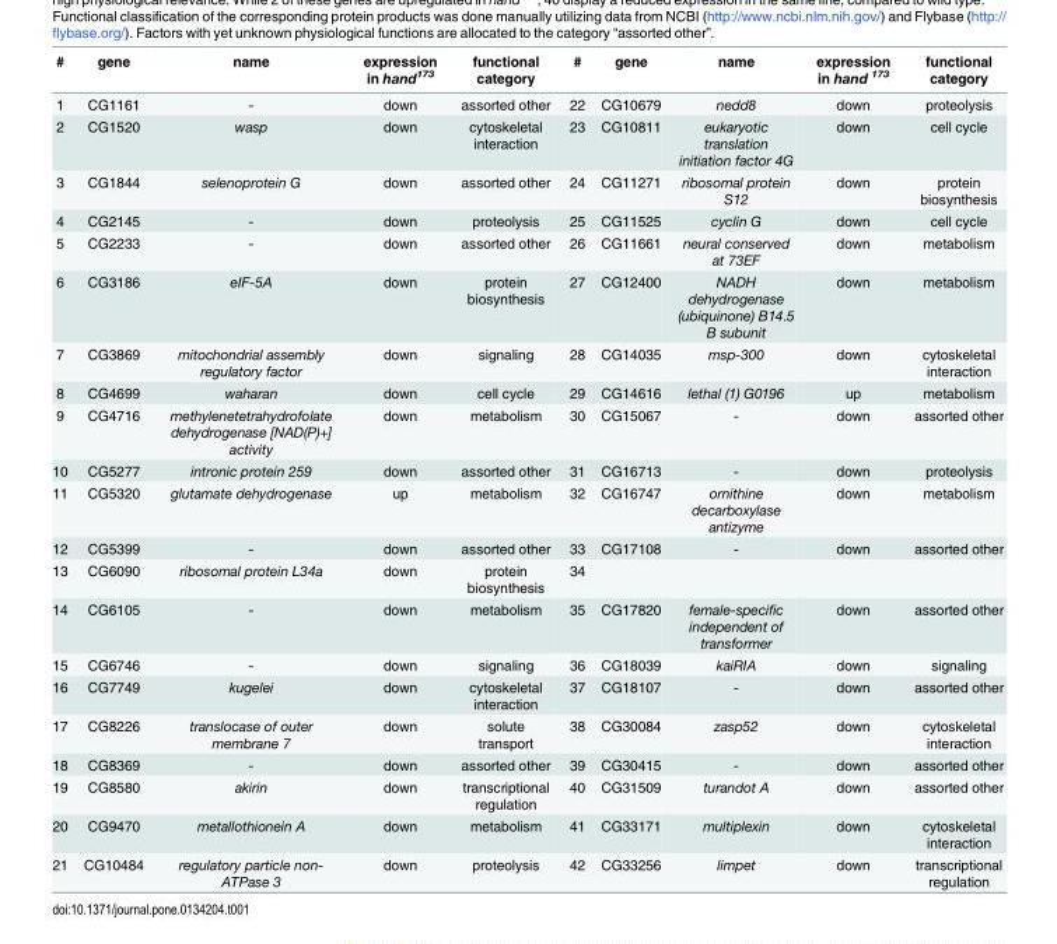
<table><thead><tr><td>#</td><td>gene</td><td>name</td><td>expression in hand<sup>173</sup></td><td>functional category</td><td>#</td><td>gene</td><td>name</td><td>expression in hand <sup>173</sup></td><td>functional category</td></tr></thead><tbody><tr><td>1</td><td>CG1161</td><td>-</td><td>down</td><td>assorted other</td><td>22</td><td>CG10679</td><td>nedd8</td><td>down</td><td>proteolysis</td></tr><tr><td>2</td><td>CG1520</td><td>wasp</td><td>down</td><td>cytoskeletal interaction</td><td>23</td><td>CG10811</td><td>eukaryotic translation initiation factor 4G</td><td>down</td><td>cell cycle</td></tr><tr><td>3</td><td>CG1844</td><td>selenoprotein G</td><td>down</td><td>assorted other</td><td>24</td><td>CG11271</td><td>ribosomal protein S12</td><td>down</td><td>protein biosynthesis</td></tr><tr><td>4</td><td>CG2145</td><td>-</td><td>down</td><td>proteolysis</td><td>25</td><td>CG11525</td><td>cyclin G</td><td>down</td><td>cell cycle</td></tr><tr><td>5</td><td>CG2233</td><td>-</td><td>down</td><td>assorted other</td><td>26</td><td>CG11661</td><td>neural conserved at 73EF</td><td>down</td><td>metabolism</td></tr><tr><td>6</td><td>CG3186</td><td>eIF-5A</td><td>down</td><td>protein biosynthesis</td><td>27</td><td>CG12400</td><td>NADH dehydrogenase (ubiquinone) B14.5 B subunit</td><td>down</td><td>metabolism</td></tr><tr><td>7</td><td>CG3869</td><td>mitochondrial assembly regulatory factor</td><td>down</td><td>signaling</td><td>28</td><td>CG14035</td><td>msp-300</td><td>down</td><td>cytoskeletal interaction</td></tr><tr><td>8</td><td>CG4699</td><td>waharan</td><td>down</td><td>cell cycle</td><td>29</td><td>CG14616</td><td>lethal (1) G0196</td><td>up</td><td>metabolism</td></tr><tr><td>9</td><td>CG4716</td><td>methylenetetrahydrofolate dehydrogenase [NAD(P)+] activity</td><td>down</td><td>metabolism</td><td>30</td><td>CG15067</td><td>-</td><td>down</td><td>assorted other</td></tr><tr><td>10</td><td>CG5277</td><td>intronic protein 259</td><td>down</td><td>assorted other</td><td>31</td><td>CG16713</td><td>-</td><td>down</td><td>proteolysis</td></tr><tr><td>11</td><td>CG5320</td><td>glutamate dehydrogenase</td><td>up</td><td>metabolism</td><td>32</td><td>CG16747</td><td>ornithine decarboxylase antizyme</td><td>down</td><td>metabolism</td></tr><tr><td>12</td><td>CG5399</td><td>-</td><td>down</td><td>assorted other</td><td>33</td><td>CG17108</td><td>-</td><td>down</td><td>assorted other</td></tr><tr><td>13</td><td>CG6090</td><td>ribosomal protein L34a</td><td>down</td><td>protein biosynthesis</td><td>34</td><td></td><td></td><td></td><td></td></tr><tr><td>14</td><td>CG6105</td><td>-</td><td>down</td><td>metabolism</td><td>35</td><td>CG17820</td><td>female-specific independent of transformer</td><td>down</td><td>assorted other</td></tr><tr><td>15</td><td>CG6746</td><td>-</td><td>down</td><td>signaling</td><td>36</td><td>CG18039</td><td>kaiRIA</td><td>down</td><td>signaling</td></tr><tr><td>16</td><td>CG7749</td><td>kugelei</td><td>down</td><td>cytoskeletal interaction</td><td>37</td><td>CG18107</td><td>-</td><td>down</td><td>assorted other</td></tr><tr><td>17</td><td>CG8226</td><td>translocase of outer membrane 7</td><td>down</td><td>solute transport</td><td>38</td><td>CG30084</td><td>zasp52</td><td>down</td><td>cytoskeletal interaction</td></tr><tr><td>18</td><td>CG8369</td><td>-</td><td>down</td><td>assorted other</td><td>39</td><td>CG30415</td><td>-</td><td>down</td><td>assorted other</td></tr><tr><td>19</td><td>CG8580</td><td>akirin</td><td>down</td><td>transcriptional regulation</td><td>40</td><td>CG31509</td><td>turandot A</td><td>down</td><td>assorted other</td></tr><tr><td>20</td><td>CG9470</td><td>metallothionein A</td><td>down</td><td>metabolism</td><td>41</td><td>CG33171</td><td>multiplexin</td><td>down</td><td>cytoskeletal interaction</td></tr><tr><td>21</td><td>CG10484</td><td>regulatory particle non- ATPase 3</td><td>down</td><td>proteolysis</td><td>42</td><td>CG33256</td><td>limpet</td><td>down</td><td>transcriptional regulation</td></tr></tbody></table>